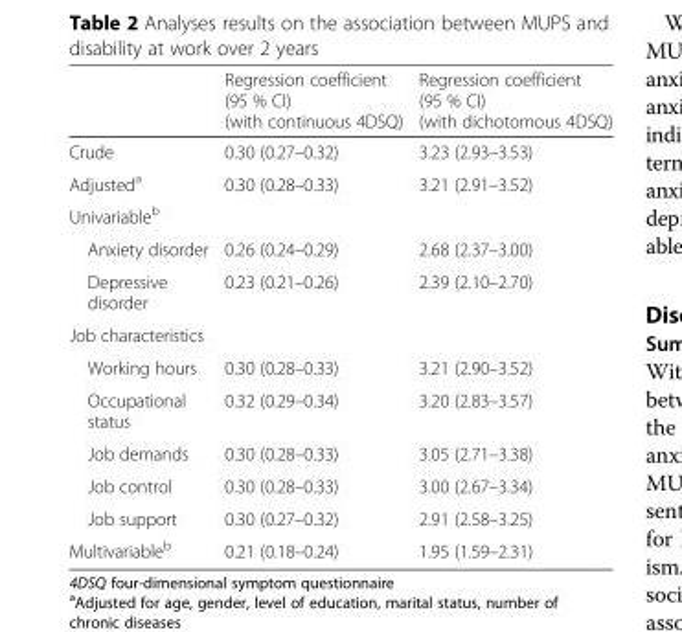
<table><thead><tr><td></td><td>Regression coefficient (95 % CI) (with continuous 4DSQ)</td><td>Regression coefficient (95 % CI) (with dichotomous 4DSQ)</td></tr></thead><tbody><tr><td>Crude</td><td>0.30 (0.27–0.32)</td><td>3.23 (2.93–3.53)</td></tr><tr><td>Adjusted<sup>a</sup></td><td>0.30 (0.28–0.33)</td><td>3.21 (2.91–3.52)</td></tr><tr><td colspan="3">Univariable<sup>b</sup></td></tr><tr><td>Anxiety disorder</td><td>0.26 (0.24–0.29)</td><td>2.68 (2.37–3.00)</td></tr><tr><td>Depressive disorder</td><td>0.23 (0.21–0.26)</td><td>2.39 (2.10–2.70)</td></tr><tr><td colspan="3">Job characteristics</td></tr><tr><td>Working hours</td><td>0.30 (0.28–0.33)</td><td>3.21 (2.90–3.52)</td></tr><tr><td>Occupational status</td><td>0.32 (0.29–0.34)</td><td>3.20 (2.83–3.57)</td></tr><tr><td>Job demands</td><td>0.30 (0.28–0.33)</td><td>3.05 (2.71–3.38)</td></tr><tr><td>Job control</td><td>0.30 (0.28–0.33)</td><td>3.00 (2.67–3.34)</td></tr><tr><td>Job support</td><td>0.30 (0.27–0.32)</td><td>2.91 (2.58–3.25)</td></tr><tr><td>Multivariable<sup>b</sup></td><td>0.21 (0.18–0.24)</td><td>1.95 (1.59–2.31)</td></tr></tbody></table>